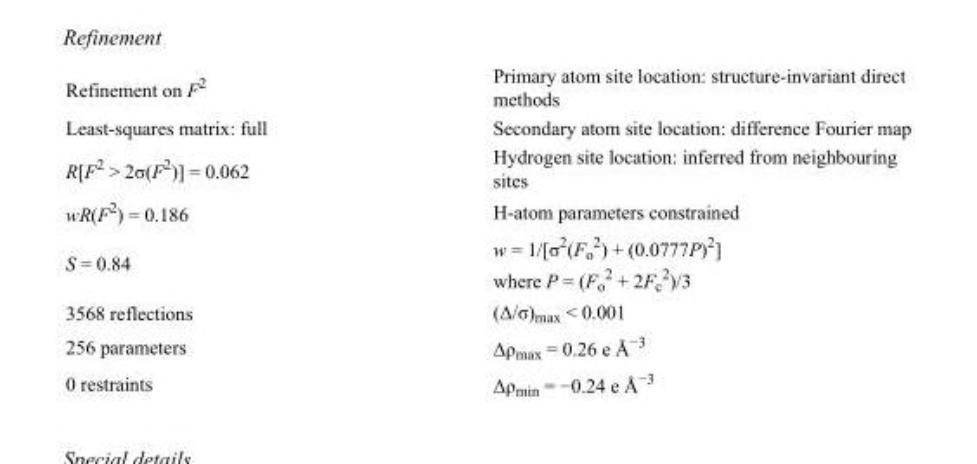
<table><tbody><tr><td>Refinement on F<sup>2</sup></td><td>Primary atom site location: structure-invariant direct methods</td></tr><tr><td>Least-squares matrix: full</td><td>Secondary atom site location: difference Fourier map</td></tr><tr><td>R[F<sup>2</sup> &gt; 2σ(F<sup>2</sup>)] = 0.062</td><td>Hydrogen site location: inferred from neighbouring sites</td></tr><tr><td>wR(F<sup>2</sup>) = 0.186</td><td>H-atom parameters constrained</td></tr><tr><td>S = 0.84</td><td>w = 1/[σ<sup>2</sup>(F<sub>o</sub> <sup>2</sup>) + (0.0777P)<sup>2</sup>] where P = (F<sub>o</sub> <sup>2</sup> + 2F<sub>c</sub> <sup>2</sup>)/3</td></tr><tr><td>3568 reflections</td><td>(Δ/σ)<sub>max</sub> &lt; 0.001</td></tr><tr><td>256 parameters</td><td>Δρ<sub>max</sub> = 0.26 e Å<sup>−3</sup></td></tr><tr><td>0 restraints</td><td>Δρ<sub>min</sub> = −0.24 e Å<sup>−3</sup></td></tr></tbody></table>